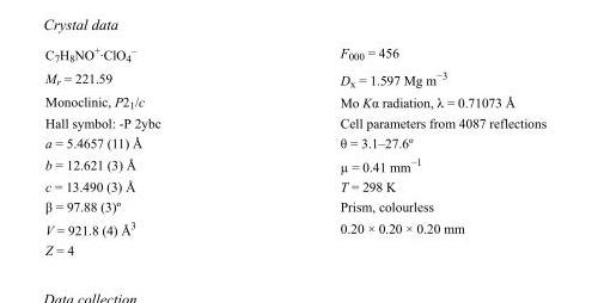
<table><tbody><tr><td>C<sub>7</sub>H<sub>8</sub>NO<sup>+</sup>·ClO<sub>4</sub> <sup>–</sup></td><td>F000 = 456</td></tr><tr><td>M<sub>r</sub> = 221.59</td><td>D<sub>x</sub> = 1.597 Mg m<sup>−3</sup></td></tr><tr><td>Monoclinic, P2<sub>1</sub>/c</td><td>Mo Kα radiation, λ = 0.71073 Å</td></tr><tr><td>Hall symbol: -P 2ybc</td><td>Cell parameters from 4087 reflections</td></tr><tr><td>a = 5.4657 (11) Å</td><td>θ = 3.1–27.6º</td></tr><tr><td>b = 12.621 (3) Å</td><td>µ = 0.41 mm<sup>−1</sup></td></tr><tr><td>c = 13.490 (3) Å</td><td>T = 298 K</td></tr><tr><td>β = 97.88 (3)º</td><td>Prism, colourless</td></tr><tr><td>V = 921.8 (4) Å<sup>3</sup></td><td>0.20 × 0.20 × 0.20 mm</td></tr><tr><td>Z = 4</td><td></td></tr></tbody></table>